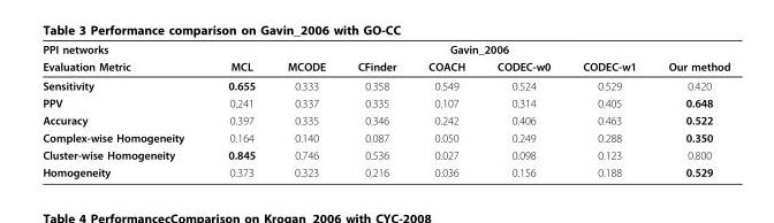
<table><thead><tr><td rowspan="2">PPI networks Evaluation Metric</td><td colspan="7">Gavin_2006</td></tr><tr><td>MCL</td><td>MCODE</td><td>CFinder</td><td>COACH</td><td>CODEC-w0</td><td>CODEC-w1</td><td>Our method</td></tr></thead><tbody><tr><td>Sensitivity</td><td>0.655</td><td>0.333</td><td>0.358</td><td>0.549</td><td>0.524</td><td>0.529</td><td>0.420</td></tr><tr><td>PPV</td><td>0.241</td><td>0.337</td><td>0.335</td><td>0.107</td><td>0.314</td><td>0.405</td><td>0.648</td></tr><tr><td>Accuracy</td><td>0.397</td><td>0.335</td><td>0.346</td><td>0.242</td><td>0.406</td><td>0.463</td><td>0.522</td></tr><tr><td>Complex-wise Homogeneity</td><td>0.164</td><td>0.140</td><td>0.087</td><td>0.050</td><td>0.249</td><td>0.288</td><td>0.350</td></tr><tr><td>Cluster-wise Homogeneity</td><td>0.845</td><td>0.746</td><td>0.536</td><td>0.027</td><td>0.098</td><td>0.123</td><td>0.800</td></tr><tr><td>Homogeneity</td><td>0.373</td><td>0.323</td><td>0.216</td><td>0.036</td><td>0.156</td><td>0.188</td><td>0.529</td></tr></tbody></table>